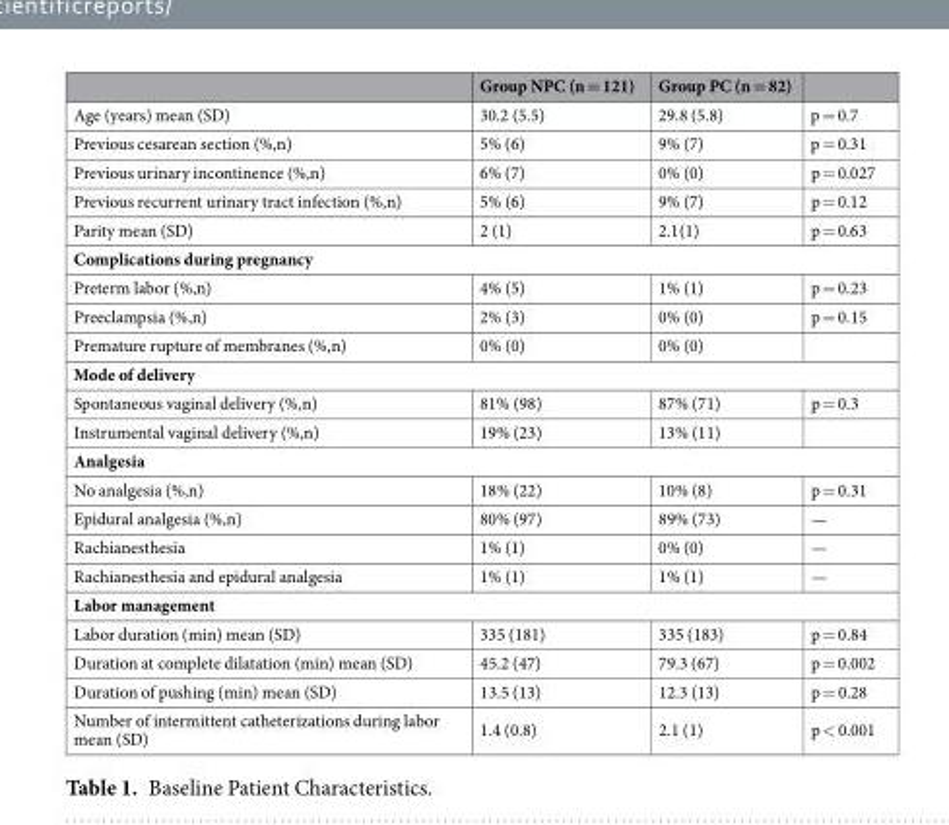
<table><thead><tr><td></td><td>Group NPC (n = 121)</td><td>Group PC (n = 82)</td><td></td></tr></thead><tbody><tr><td>Age (years) mean (SD)</td><td>30.2 (5.5)</td><td>29.8 (5.8)</td><td>p = 0.7</td></tr><tr><td>Previous cesarean section (%,n)</td><td>5% (6)</td><td>9% (7)</td><td>p = 0.31</td></tr><tr><td>Previous urinary incontinence (%,n)</td><td>6% (7)</td><td>0% (0)</td><td>p = 0.027</td></tr><tr><td>Previous recurrent urinary tract infection (%,n)</td><td>5% (6)</td><td>9% (7)</td><td>p = 0.12</td></tr><tr><td>Parity mean (SD)</td><td>2 (1)</td><td>2.1(1)</td><td>p = 0.63</td></tr><tr><td colspan="4">Complications during pregnancy</td></tr><tr><td>Preterm labor (%,n)</td><td>4% (5)</td><td>1% (1)</td><td>p = 0.23</td></tr><tr><td>Preeclampsia (%,n)</td><td>2% (3)</td><td>0% (0)</td><td>p = 0.15</td></tr><tr><td>Premature rupture of membranes (%,n)</td><td>0% (0)</td><td>0% (0)</td><td></td></tr><tr><td colspan="4">Mode of delivery</td></tr><tr><td>Spontaneous vaginal delivery (%,n)</td><td>81% (98)</td><td>87% (71)</td><td>p = 0.3</td></tr><tr><td>Instrumental vaginal delivery (%,n)</td><td>19% (23)</td><td>13% (11)</td><td></td></tr><tr><td colspan="4">Analgesia</td></tr><tr><td>No analgesia (%,n)</td><td>18% (22)</td><td>10% (8)</td><td>p = 0.31</td></tr><tr><td>Epidural analgesia (%,n)</td><td>80% (97)</td><td>89% (73)</td><td>—</td></tr><tr><td>Rachianesthesia</td><td>1% (1)</td><td>0% (0)</td><td>—</td></tr><tr><td>Rachianesthesia and epidural analgesia</td><td>1% (1)</td><td>1% (1)</td><td>—</td></tr><tr><td colspan="4">Labor management</td></tr><tr><td>Labor duration (min) mean (SD)</td><td>335 (181)</td><td>335 (183)</td><td>p = 0.84</td></tr><tr><td>Duration at complete dilatation (min) mean (SD)</td><td>45.2 (47)</td><td>79.3 (67)</td><td>p = 0.002</td></tr><tr><td>Duration of pushing (min) mean (SD)</td><td>13.5 (13)</td><td>12.3 (13)</td><td>p = 0.28</td></tr><tr><td>Number of intermittent catheterizations during labor mean (SD)</td><td>1.4 (0.8)</td><td>2.1 (1)</td><td>p &lt; 0.001</td></tr></tbody></table>